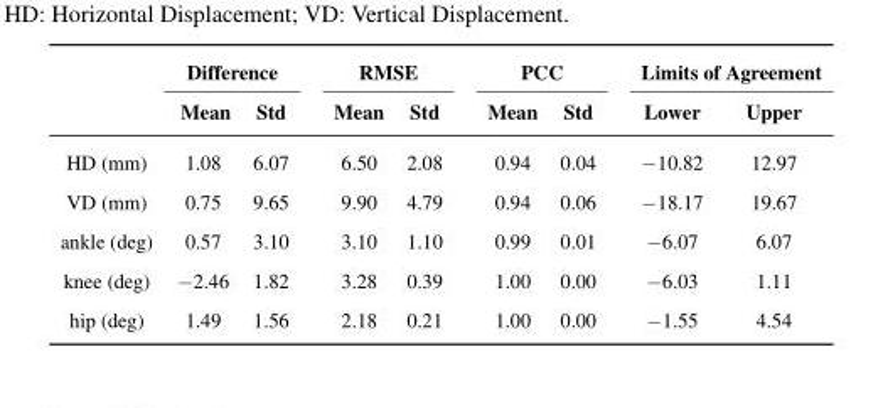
<table><thead><tr><td rowspan="2"></td><td colspan="2">Difference</td><td colspan="2">RMSE</td><td colspan="2">PCC</td><td colspan="2">Limits of Agreement</td></tr><tr><td>Mean</td><td>Std</td><td>Mean</td><td>Std</td><td>Mean</td><td>Std</td><td>Lower</td><td>Upper</td></tr></thead><tbody><tr><td>HD (mm)</td><td>1.08</td><td>6.07</td><td>6.50</td><td>2.08</td><td>0.94</td><td>0.04</td><td>−10.82</td><td>12.97</td></tr><tr><td>VD (mm)</td><td>0.75</td><td>9.65</td><td>9.90</td><td>4.79</td><td>0.94</td><td>0.06</td><td>−18.17</td><td>19.67</td></tr><tr><td>ankle (deg)</td><td>0.57</td><td>3.10</td><td>3.10</td><td>1.10</td><td>0.99</td><td>0.01</td><td>−6.07</td><td>6.07</td></tr><tr><td>knee (deg)</td><td>−2.46</td><td>1.82</td><td>3.28</td><td>0.39</td><td>1.00</td><td>0.00</td><td>−6.03</td><td>1.11</td></tr><tr><td>hip (deg)</td><td>1.49</td><td>1.56</td><td>2.18</td><td>0.21</td><td>1.00</td><td>0.00</td><td>−1.55</td><td>4.54</td></tr></tbody></table>